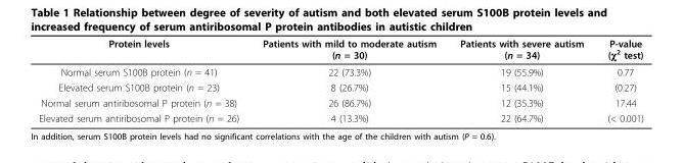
<table><thead><tr><td>Protein levels</td><td>Patients with mild to moderate autism (n = 30)</td><td>Patients with severe autism (n = 34)</td><td>P-value (χ<sup>2</sup> test)</td></tr></thead><tbody><tr><td>Normal serum S100B protein (n = 41)</td><td>22 (73.3%)</td><td>19 (55.9%)</td><td>0.77</td></tr><tr><td>Elevated serum S100B protein (n = 23)</td><td>8 (26.7%)</td><td>15 (44.1%)</td><td>(0.27)</td></tr><tr><td>Normal serum antiribosomal P protein (n = 38)</td><td>26 (86.7%)</td><td>12 (35.3%)</td><td>17.44</td></tr><tr><td>Elevated serum antiribosomal P protein (n = 26)</td><td>4 (13.3%)</td><td>22 (64.7%)</td><td>(&lt; 0.001)</td></tr></tbody></table>